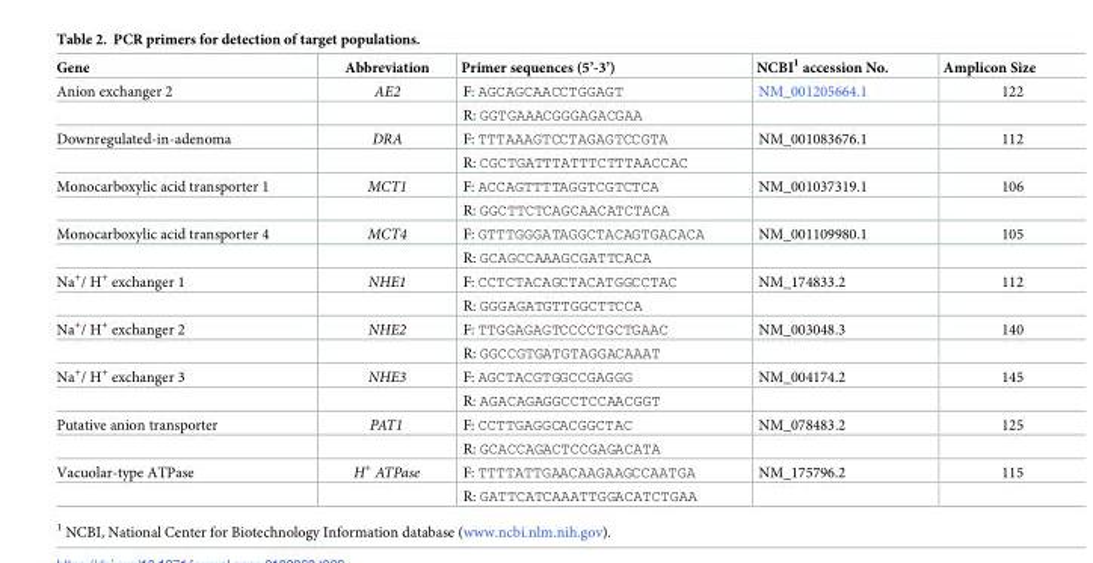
<table><thead><tr><td>Gene</td><td>Abbreviation</td><td>Primer sequences (5’-3’)</td><td>NCBI<sup>1</sup> accession No.</td><td>Amplicon Size</td></tr></thead><tbody><tr><td rowspan="2">Anion exchanger 2</td><td>AE2</td><td>F: AGCAGCAACCTGGAGT</td><td>NM_001205664.1</td><td>122</td></tr><tr><td></td><td>R: GGTGAAACGGGAGACGAA</td><td></td><td></td></tr><tr><td rowspan="2">Downregulated-in-adenoma</td><td>DRA</td><td>F: TTTAAAGTCCTAGAGTCCGTA</td><td>NM_001083676.1</td><td>112</td></tr><tr><td></td><td>R: CGCTGATTTATTTCTTTAACCAC</td><td></td><td></td></tr><tr><td rowspan="2">Monocarboxylic acid transporter 1</td><td>MCT1</td><td>F: ACCAGTTTTAGGTCGTCTCA</td><td>NM_001037319.1</td><td>106</td></tr><tr><td></td><td>R: GGCTTCTCAGCAACATCTACA</td><td></td><td></td></tr><tr><td rowspan="2">Monocarboxylic acid transporter 4</td><td>MCT4</td><td>F: GTTTGGGATAGGCTACAGTGACACA</td><td>NM_001109980.1</td><td>105</td></tr><tr><td></td><td>R: GCAGCCAAAGCGATTCACA</td><td></td><td></td></tr><tr><td rowspan="2">Na<sup>+</sup>/ H<sup>+</sup> exchanger 1</td><td>NHE1</td><td>F: CCTCTACAGCTACATGGCCTAC</td><td>NM_174833.2</td><td>112</td></tr><tr><td></td><td>R: GGGAGATGTTGGCTTCCA</td><td></td><td></td></tr><tr><td rowspan="2">Na<sup>+</sup>/ H<sup>+</sup> exchanger 2</td><td>NHE2</td><td>F: TTGGAGAGTCCCCTGCTGAAC</td><td>NM_003048.3</td><td>140</td></tr><tr><td></td><td>R: GGCCGTGATGTAGGACAAAT</td><td></td><td></td></tr><tr><td rowspan="2">Na<sup>+</sup>/ H<sup>+</sup> exchanger 3</td><td>NHE3</td><td>F: AGCTACGTGGCCGAGGG</td><td>NM_004174.2</td><td>145</td></tr><tr><td></td><td>R: AGACAGAGGCCTCCAACGGT</td><td></td><td></td></tr><tr><td rowspan="2">Putative anion transporter</td><td>PAT1</td><td>F: CCTTGAGGCACGGCTAC</td><td>NM_078483.2</td><td>125</td></tr><tr><td></td><td>R: GCACCAGACTCCGAGACATA</td><td></td><td></td></tr><tr><td rowspan="2">Vacuolar-type ATPase</td><td>H<sup>+</sup> ATPase</td><td>F: TTTTATTGAACAAGAAGCCAATGA</td><td>NM_175796.2</td><td>115</td></tr><tr><td></td><td>R: GATTCATCAAATTGGACATCTGAA</td><td></td><td></td></tr></tbody></table>